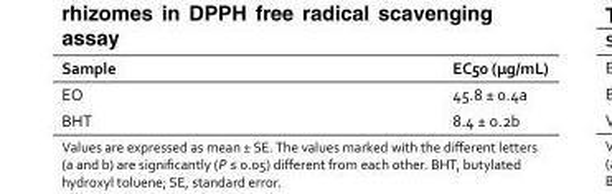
<table><thead><tr><td>Sample</td><td>EC50 (µg/mL)</td></tr></thead><tbody><tr><td>EO</td><td>45.8 ± 0.4a</td></tr><tr><td>BHT</td><td>8.4 ± 0.2b</td></tr></tbody></table>